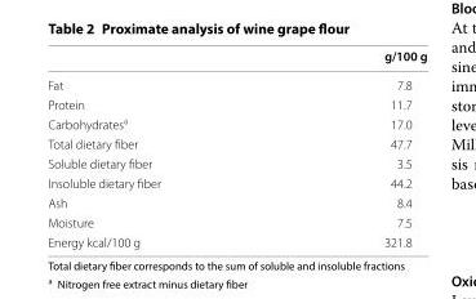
<table><thead><tr><td></td><td>g/100 g</td></tr></thead><tbody><tr><td>Fat</td><td>7.8</td></tr><tr><td>Protein</td><td>11.7</td></tr><tr><td>Carbohydrates<sup>a</sup></td><td>17.0</td></tr><tr><td>Total dietary fiber</td><td>47.7</td></tr><tr><td>Soluble dietary fiber</td><td>3.5</td></tr><tr><td>Insoluble dietary fiber</td><td>44.2</td></tr><tr><td>Ash</td><td>8.4</td></tr><tr><td>Moisture</td><td>7.5</td></tr><tr><td>Energy kcal/100 g</td><td>321.8</td></tr></tbody></table>